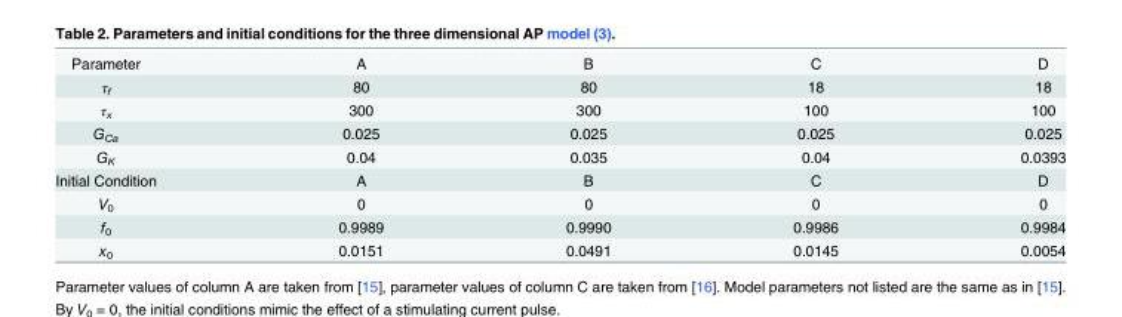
<table><tbody><tr><td>Parameter</td><td>A</td><td>B</td><td>C</td><td>D</td></tr><tr><td>τ<sub>f</sub></td><td>80</td><td>80</td><td>18</td><td>18</td></tr><tr><td>τ<sub>x</sub></td><td>300</td><td>300</td><td>100</td><td>100</td></tr><tr><td>G<sub>Ca</sub></td><td>0.025</td><td>0.025</td><td>0.025</td><td>0.025</td></tr><tr><td>G<sub>K</sub></td><td>0.04</td><td>0.035</td><td>0.04</td><td>0.0393</td></tr><tr><td>Initial Condition</td><td>A</td><td>B</td><td>C</td><td>D</td></tr><tr><td>V<sub>0</sub></td><td>0</td><td>0</td><td>0</td><td>0</td></tr><tr><td>f<sub>0</sub></td><td>0.9989</td><td>0.9990</td><td>0.9986</td><td>0.9984</td></tr><tr><td>x<sub>0</sub></td><td>0.0151</td><td>0.0491</td><td>0.0145</td><td>0.0054</td></tr></tbody></table>